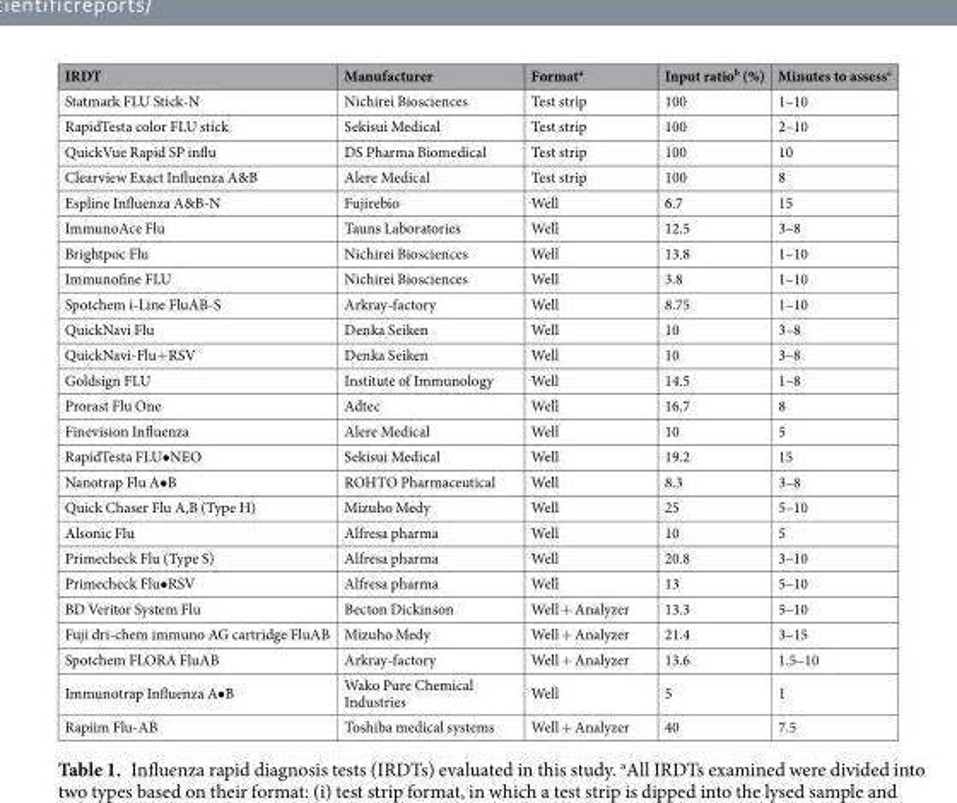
<table><thead><tr><td>IRDT</td><td>Manufacturer</td><td>Format<sup>a</sup></td><td>Input ratio<sup>b</sup> (%)</td><td>Minutes to assess<sup>c</sup></td></tr></thead><tbody><tr><td>Statmark FLU Stick-N</td><td>Nichirei Biosciences</td><td>Test strip</td><td>100</td><td>1–10</td></tr><tr><td>RapidTesta color FLU stick</td><td>Sekisui Medical</td><td>Test strip</td><td>100</td><td>2–10</td></tr><tr><td>QuickVue Rapid SP influ</td><td>DS Pharma Biomedical</td><td>Test strip</td><td>100</td><td>10</td></tr><tr><td>Clearview Exact Influenza A&amp;B</td><td>Alere Medical</td><td>Test strip</td><td>100</td><td>8</td></tr><tr><td>Espline Influenza A&amp;B-N</td><td>Fujirebio</td><td>Well</td><td>6.7</td><td>15</td></tr><tr><td>ImmunoAce Flu</td><td>Tauns Laboratories</td><td>Well</td><td>12.5</td><td>3–8</td></tr><tr><td>Brightpoc Flu</td><td>Nichirei Biosciences</td><td>Well</td><td>13.8</td><td>1–10</td></tr><tr><td>Immunofine FLU</td><td>Nichirei Biosciences</td><td>Well</td><td>3.8</td><td>1–10</td></tr><tr><td>Spotchem i-Line FluAB-S</td><td>Arkray-factory</td><td>Well</td><td>8.75</td><td>1–10</td></tr><tr><td>QuickNavi Flu</td><td>Denka Seiken</td><td>Well</td><td>10</td><td>3–8</td></tr><tr><td>QuickNavi-Flu+RSV</td><td>Denka Seiken</td><td>Well</td><td>10</td><td>3–8</td></tr><tr><td>Goldsign FLU</td><td>Institute of Immunology</td><td>Well</td><td>14.5</td><td>1–8</td></tr><tr><td>Prorast Flu One</td><td>Adtec</td><td>Well</td><td>16.7</td><td>8</td></tr><tr><td>Finevision Influenza</td><td>Alere Medical</td><td>Well</td><td>10</td><td>5</td></tr><tr><td>RapidTesta FLU•NEO</td><td>Sekisui Medical</td><td>Well</td><td>19.2</td><td>15</td></tr><tr><td>Nanotrap Flu A•B</td><td>ROHTO Pharmaceutical</td><td>Well</td><td>8.3</td><td>3–8</td></tr><tr><td>Quick Chaser Flu A,B (Type H)</td><td>Mizuho Medy</td><td>Well</td><td>25</td><td>5–10</td></tr><tr><td>Alsonic Flu</td><td>Alfresa pharma</td><td>Well</td><td>10</td><td>5</td></tr><tr><td>Primecheck Flu (Type S)</td><td>Alfresa pharma</td><td>Well</td><td>20.8</td><td>3–10</td></tr><tr><td>Primecheck Flu•RSV</td><td>Alfresa pharma</td><td>Well</td><td>13</td><td>5–10</td></tr><tr><td>BD Veritor System Flu</td><td>Becton Dickinson</td><td>Well + Analyzer</td><td>13.3</td><td>5–10</td></tr><tr><td>Fuji dri-chem immuno AG cartridge FluAB</td><td>Mizuho Medy</td><td>Well + Analyzer</td><td>21.4</td><td>3–15</td></tr><tr><td>Spotchem FLORA FluAB</td><td>Arkray-factory</td><td>Well + Analyzer</td><td>13.6</td><td>1.5–10</td></tr><tr><td>Immunotrap Influenza A•B</td><td>Wako Pure Chemical Industries</td><td>Well</td><td>5</td><td>1</td></tr><tr><td>Rapiim Flu-AB</td><td>Toshiba medical systems</td><td>Well + Analyzer</td><td>40</td><td>7.5</td></tr></tbody></table>